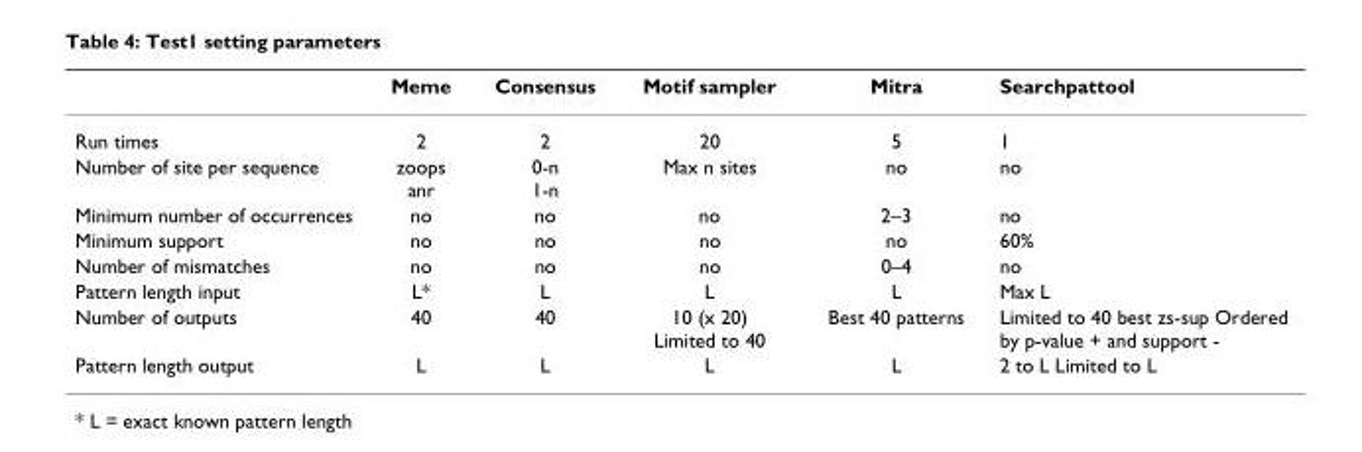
<table><thead><tr><td></td><td>Meme</td><td>Consensus</td><td>Motif sampler</td><td>Mitra</td><td>Searchpattool</td></tr></thead><tbody><tr><td>Run times</td><td>2</td><td>2</td><td>20</td><td>5</td><td>1</td></tr><tr><td>Number of site per sequence</td><td>zoops anr</td><td>0-n 1-n</td><td>Max n sites</td><td>no</td><td>no</td></tr><tr><td>Minimum number of occurrences</td><td>no</td><td>no</td><td>no</td><td>2–3</td><td>no</td></tr><tr><td>Minimum support</td><td>no</td><td>no</td><td>no</td><td>no</td><td>60%</td></tr><tr><td>Number of mismatches</td><td>no</td><td>no</td><td>no</td><td>0–4</td><td>no</td></tr><tr><td>Pattern length input</td><td>L*</td><td>L</td><td>L</td><td>L</td><td>Max L</td></tr><tr><td>Number of outputs</td><td>40</td><td>40</td><td>10 (x 20) Limited to 40</td><td>Best 40 patterns</td><td>Limited to 40 best zs-sup Ordered by p-value + and support -</td></tr><tr><td>Pattern length output</td><td>L</td><td>L</td><td>L</td><td>L</td><td>2 to L Limited to L</td></tr></tbody></table>